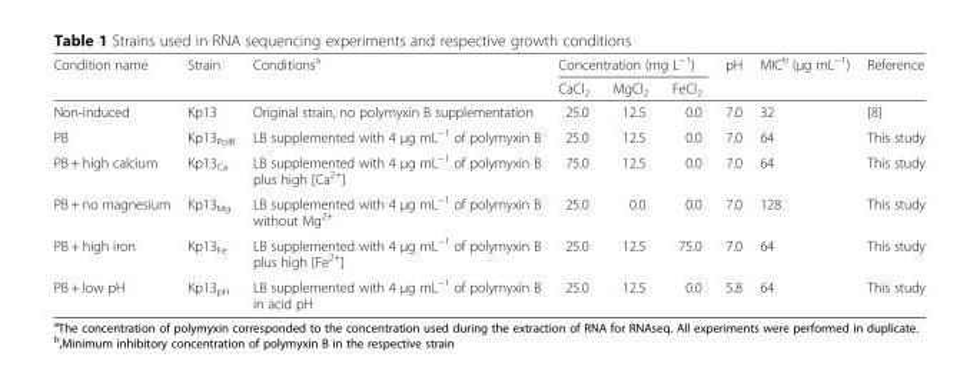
<table><thead><tr><td rowspan="2">Condition name</td><td rowspan="2">Strain</td><td rowspan="2">Conditions<sup>a</sup></td><td colspan="3">Concentration (mg L<sup>−1</sup>)</td><td rowspan="2">pH</td><td rowspan="2">MIC<sup>b</sup> (μg mL<sup>−1</sup>)</td><td rowspan="2">Reference</td></tr><tr><td>CaCl<sub>2</sub></td><td>MgCl<sub>2</sub></td><td>FeCl<sub>2</sub></td></tr></thead><tbody><tr><td>Non-induced</td><td>Kp13</td><td>Original strain, no polymyxin B supplementation</td><td>25.0</td><td>12.5</td><td>0.0</td><td>7.0</td><td>32</td><td>[8]</td></tr><tr><td>PB</td><td>Kp13<sub>PolB</sub></td><td>LB supplemented with 4 μg mL<sup>−1</sup> of polymyxin B</td><td>25.0</td><td>12.5</td><td>0.0</td><td>7.0</td><td>64</td><td>This study</td></tr><tr><td>PB + high calcium</td><td>Kp13<sub>Ca</sub></td><td>LB supplemented with 4 μg mL<sup>−1</sup> of polymyxin B plus high [Ca<sup>2+</sup>]</td><td>75.0</td><td>12.5</td><td>0.0</td><td>7.0</td><td>64</td><td>This study</td></tr><tr><td>PB + no magnesium</td><td>Kp13<sub>Mg</sub></td><td>LB supplemented with 4 μg mL<sup>−1</sup> of polymyxin B without Mg<sup>2+</sup></td><td>25.0</td><td>0.0</td><td>0.0</td><td>7.0</td><td>128</td><td>This study</td></tr><tr><td>PB + high iron</td><td>Kp13<sub>Fe</sub></td><td>LB supplemented with 4 μg mL<sup>−1</sup> of polymyxin B plus high [Fe<sup>2+</sup>]</td><td>25.0</td><td>12.5</td><td>75.0</td><td>7.0</td><td>64</td><td>This study</td></tr><tr><td>PB + low pH</td><td>Kp13<sub>pH</sub></td><td>LB supplemented with 4 μg mL<sup>−1</sup> of polymyxin B in acid pH</td><td>25.0</td><td>12.5</td><td>0.0</td><td>5.8</td><td>64</td><td>This study</td></tr></tbody></table>